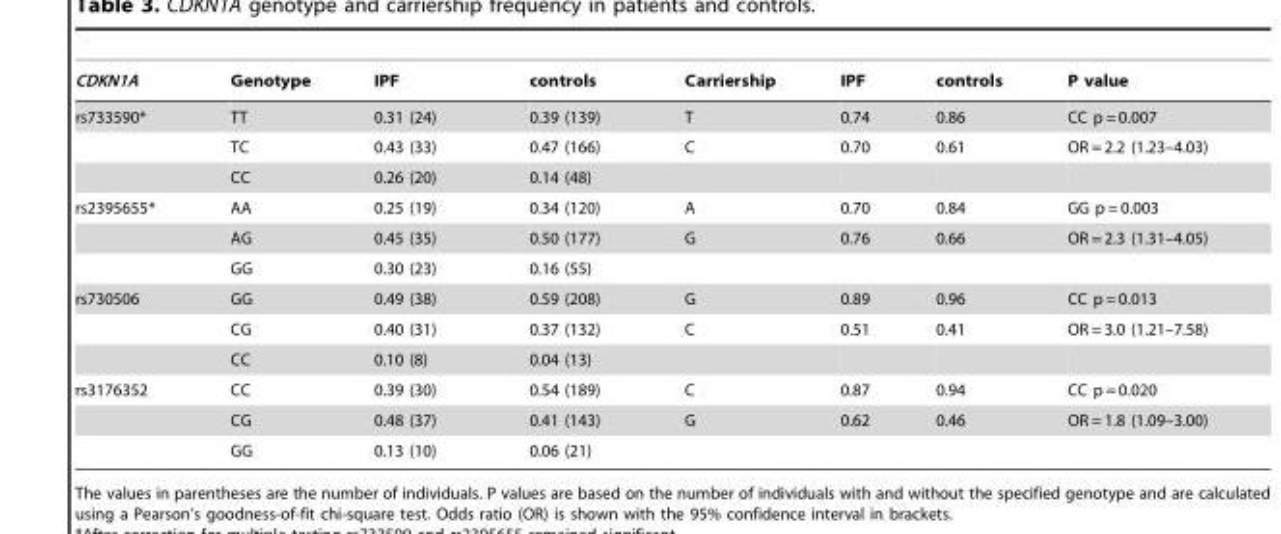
<table><thead><tr><td>CDKN1A</td><td>Genotype</td><td>IPF</td><td>controls</td><td>Carriership</td><td>IPF</td><td>controls</td><td>P value</td></tr></thead><tbody><tr><td rowspan="3">rs733590*</td><td>TT</td><td>0.31 (24)</td><td>0.39 (139)</td><td>T</td><td>0.74</td><td>0.86</td><td>CC p = 0.007</td></tr><tr><td>TC</td><td>0.43 (33)</td><td>0.47 (166)</td><td>C</td><td>0.70</td><td>0.61</td><td>OR = 2.2 (1.23–4.03)</td></tr><tr><td>CC</td><td>0.26 (20)</td><td>0.14 (48)</td><td></td><td></td><td></td><td></td></tr><tr><td rowspan="3">rs2395655*</td><td>AA</td><td>0.25 (19)</td><td>0.34 (120)</td><td>A</td><td>0.70</td><td>0.84</td><td>GG p = 0.003</td></tr><tr><td>AG</td><td>0.45 (35)</td><td>0.50 (177)</td><td>G</td><td>0.76</td><td>0.66</td><td>OR = 2.3 (1.31–4.05)</td></tr><tr><td>GG</td><td>0.30 (23)</td><td>0.16 (55)</td><td></td><td></td><td></td><td></td></tr><tr><td rowspan="3">rs730506</td><td>GG</td><td>0.49 (38)</td><td>0.59 (208)</td><td>G</td><td>0.89</td><td>0.96</td><td>CC p = 0.013</td></tr><tr><td>CG</td><td>0.40 (31)</td><td>0.37 (132)</td><td>C</td><td>0.51</td><td>0.41</td><td>OR = 3.0 (1.21–7.58)</td></tr><tr><td>CC</td><td>0.10 (8)</td><td>0.04 (13)</td><td></td><td></td><td></td><td></td></tr><tr><td rowspan="3">rs3176352</td><td>CC</td><td>0.39 (30)</td><td>0.54 (189)</td><td>C</td><td>0.87</td><td>0.94</td><td>CC p = 0.020</td></tr><tr><td>CG</td><td>0.48 (37)</td><td>0.41 (143)</td><td>G</td><td>0.62</td><td>0.46</td><td>OR = 1.8 (1.09–3.00)</td></tr><tr><td>GG</td><td>0.13 (10)</td><td>0.06 (21)</td><td></td><td></td><td></td><td></td></tr></tbody></table>